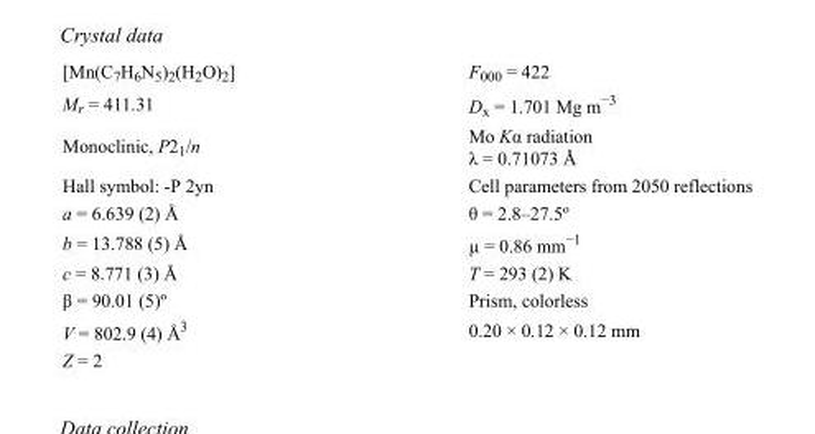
<table><tbody><tr><td>[Mn(C<sub>7</sub>H<sub>6</sub>N<sub>5</sub>)<sub>2</sub>(H<sub>2</sub>O)<sub>2</sub>]</td><td>F<sub>000</sub> = 422</td></tr><tr><td>M<sub>r</sub> = 411.31</td><td>D<sub>x</sub> = 1.701 Mg m<sup>−3</sup></td></tr><tr><td>Monoclinic, P2<sub>1</sub>/n</td><td>Mo Kα radiation λ = 0.71073 Å</td></tr><tr><td>Hall symbol: -P 2yn</td><td>Cell parameters from 2050 reflections</td></tr><tr><td>a = 6.639 (2) Å</td><td>θ = 2.8–27.5º</td></tr><tr><td>b = 13.788 (5) Å</td><td>µ = 0.86 mm<sup>−1</sup></td></tr><tr><td>c = 8.771 (3) Å</td><td>T = 293 (2) K</td></tr><tr><td>β = 90.01 (5)º</td><td>Prism, colorless</td></tr><tr><td>V = 802.9 (4) Å<sup>3</sup></td><td>0.20 × 0.12 × 0.12 mm</td></tr><tr><td>Z = 2</td><td></td></tr></tbody></table>